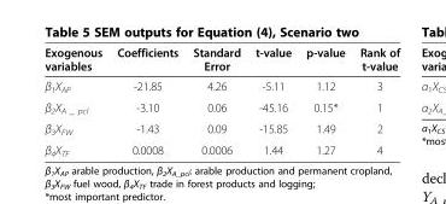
<table><thead><tr><td>Exogenous variables</td><td>Coefficients</td><td>Standard Error</td><td>t-value</td><td>p-value</td><td>Rank of t-value</td></tr></thead><tbody><tr><td>β<sub>1</sub>X<sub>AP</sub></td><td>-21.85</td><td>4.26</td><td>-5.11</td><td>1.12</td><td>3</td></tr><tr><td>β<sub>2</sub>X<sub>A _ pcl</sub></td><td>-3.10</td><td>0.06</td><td>-45.16</td><td>0.15*</td><td>1</td></tr><tr><td>β<sub>3</sub>X<sub>FW</sub></td><td>-1.43</td><td>0.09</td><td>-15.85</td><td>1.49</td><td>2</td></tr><tr><td>β<sub>4</sub>X<sub>TF</sub></td><td>0.0008</td><td>0.0006</td><td>1.44</td><td>1.27</td><td>4</td></tr></tbody></table>